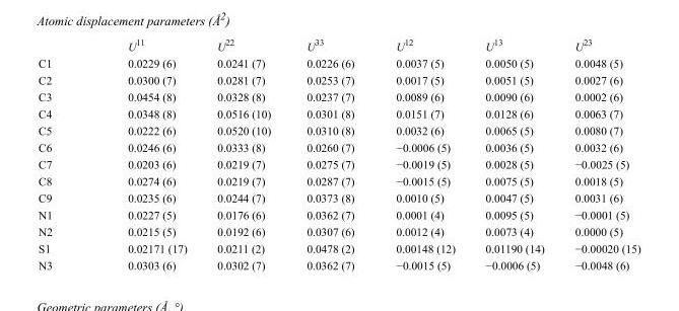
<table><thead><tr><td></td><td>U<sup>11</sup></td><td>U<sup>22</sup></td><td>U<sup>33</sup></td><td>U<sup>12</sup></td><td>U<sup>13</sup></td><td>U<sup>23</sup></td></tr></thead><tbody><tr><td>C1</td><td>0.0229 (6)</td><td>0.0241 (7)</td><td>0.0226 (6)</td><td>0.0037 (5)</td><td>0.0050 (5)</td><td>0.0048 (5)</td></tr><tr><td>C2</td><td>0.0300 (7)</td><td>0.0281 (7)</td><td>0.0253 (7)</td><td>0.0017 (5)</td><td>0.0051 (5)</td><td>0.0027 (6)</td></tr><tr><td>C3</td><td>0.0454 (8)</td><td>0.0328 (8)</td><td>0.0237 (7)</td><td>0.0089 (6)</td><td>0.0090 (6)</td><td>0.0002 (6)</td></tr><tr><td>C4</td><td>0.0348 (8)</td><td>0.0516 (10)</td><td>0.0301 (8)</td><td>0.0151 (7)</td><td>0.0128 (6)</td><td>0.0063 (7)</td></tr><tr><td>C5</td><td>0.0222 (6)</td><td>0.0520 (10)</td><td>0.0310 (8)</td><td>0.0032 (6)</td><td>0.0065 (5)</td><td>0.0080 (7)</td></tr><tr><td>C6</td><td>0.0246 (6)</td><td>0.0333 (8)</td><td>0.0260 (7)</td><td>−0.0006 (5)</td><td>0.0036 (5)</td><td>0.0032 (6)</td></tr><tr><td>C7</td><td>0.0203 (6)</td><td>0.0219 (7)</td><td>0.0275 (7)</td><td>−0.0019 (5)</td><td>0.0028 (5)</td><td>−0.0025 (5)</td></tr><tr><td>C8</td><td>0.0274 (6)</td><td>0.0219 (7)</td><td>0.0287 (7)</td><td>−0.0015 (5)</td><td>0.0075 (5)</td><td>0.0018 (5)</td></tr><tr><td>C9</td><td>0.0235 (6)</td><td>0.0244 (7)</td><td>0.0373 (8)</td><td>0.0010 (5)</td><td>0.0047 (5)</td><td>0.0031 (6)</td></tr><tr><td>N1</td><td>0.0227 (5)</td><td>0.0176 (6)</td><td>0.0362 (7)</td><td>0.0001 (4)</td><td>0.0095 (5)</td><td>−0.0001 (5)</td></tr><tr><td>N2</td><td>0.0215 (5)</td><td>0.0192 (6)</td><td>0.0307 (6)</td><td>0.0012 (4)</td><td>0.0073 (4)</td><td>0.0000 (5)</td></tr><tr><td>S1</td><td>0.02171 (17)</td><td>0.0211 (2)</td><td>0.0478 (2)</td><td>0.00148 (12)</td><td>0.01190 (14)</td><td>−0.00020 (15)</td></tr><tr><td>N3</td><td>0.0303 (6)</td><td>0.0302 (7)</td><td>0.0362 (7)</td><td>−0.0015 (5)</td><td>−0.0006 (5)</td><td>−0.0048 (6)</td></tr></tbody></table>